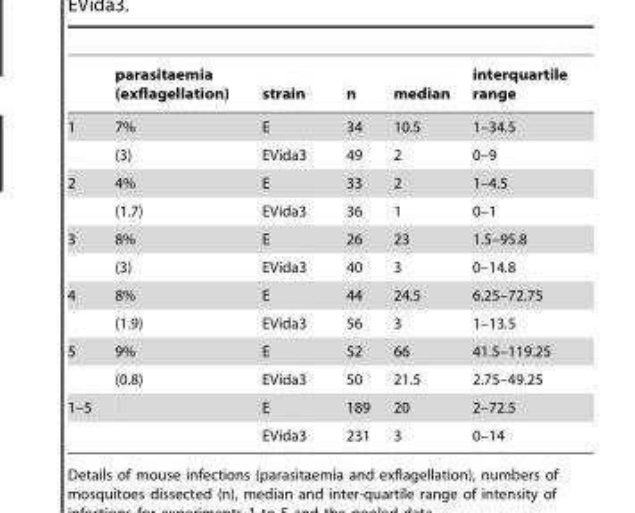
<table><thead><tr><td></td><td>parasitaemia (exflagellation)</td><td>strain</td><td>n</td><td>median</td><td>interquartile range</td></tr></thead><tbody><tr><td rowspan="2">1</td><td>7%</td><td>E</td><td>34</td><td>10.5</td><td>1–34.5</td></tr><tr><td>(3)</td><td>EVida3</td><td>49</td><td>2</td><td>0–9</td></tr><tr><td rowspan="2">2</td><td>4%</td><td>E</td><td>33</td><td>2</td><td>1–4.5</td></tr><tr><td>(1.7)</td><td>EVida3</td><td>36</td><td>1</td><td>0–1</td></tr><tr><td rowspan="2">3</td><td>8%</td><td>E</td><td>26</td><td>23</td><td>1.5–95.8</td></tr><tr><td>(3)</td><td>EVida3</td><td>40</td><td>3</td><td>0–14.8</td></tr><tr><td rowspan="2">4</td><td>8%</td><td>E</td><td>44</td><td>24.5</td><td>6.25–72.75</td></tr><tr><td>(1.9)</td><td>EVida3</td><td>56</td><td>3</td><td>1–13.5</td></tr><tr><td rowspan="2">5</td><td>9%</td><td>E</td><td>52</td><td>66</td><td>41.5–119.25</td></tr><tr><td>(0.8)</td><td>EVida3</td><td>50</td><td>21.5</td><td>2.75–49.25</td></tr><tr><td rowspan="2">1–5</td><td></td><td>E</td><td>189</td><td>20</td><td>2–72.5</td></tr><tr><td></td><td>EVida3</td><td>231</td><td>3</td><td>0–14</td></tr></tbody></table>